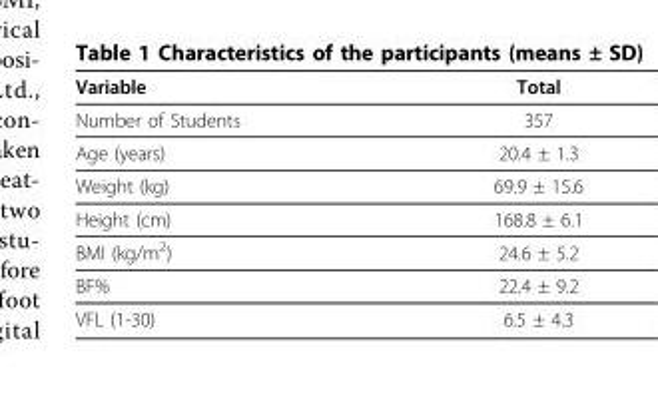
<table><thead><tr><td>Variable</td><td>Total</td></tr></thead><tbody><tr><td>Number of Students</td><td>357</td></tr><tr><td>Age (years)</td><td>20.4 ± 1.3</td></tr><tr><td>Weight (kg)</td><td>69.9 ± 15.6</td></tr><tr><td>Height (cm)</td><td>168.8 ± 6.1</td></tr><tr><td>BMI (kg/m<sup>2</sup>)</td><td>24.6 ± 5.2</td></tr><tr><td>BF%</td><td>22.4 ± 9.2</td></tr><tr><td>VFL (1-30)</td><td>6.5 ± 4.3</td></tr></tbody></table>